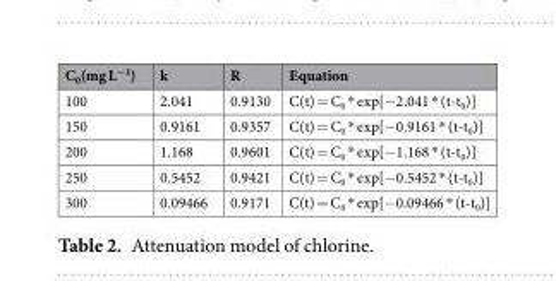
<table><thead><tr><td>C<sub>0</sub>(mg L<sup>−1</sup>)</td><td>k</td><td>R</td><td>Equation</td></tr></thead><tbody><tr><td>100</td><td>2.041</td><td>0.9130</td><td>C(t) = C<sub>0</sub> * exp[−2.041 * (t-t<sub>0</sub>)]</td></tr><tr><td>150</td><td>0.9161</td><td>0.9357</td><td>C(t) = C<sub>0</sub> * exp[−0.9161 * (t-t<sub>0</sub>)]</td></tr><tr><td>200</td><td>1.168</td><td>0.9601</td><td>C(t) = C<sub>0</sub> * exp[−1.168 * (t-t<sub>0</sub>)]</td></tr><tr><td>250</td><td>0.5452</td><td>0.9421</td><td>C(t) = C<sub>0</sub> * exp[−0.5452 * (t-t<sub>0</sub>)]</td></tr><tr><td>300</td><td>0.09466</td><td>0.9171</td><td>C(t) = C<sub>0</sub> * exp[−0.09466 * (t-t<sub>0</sub>)]</td></tr></tbody></table>